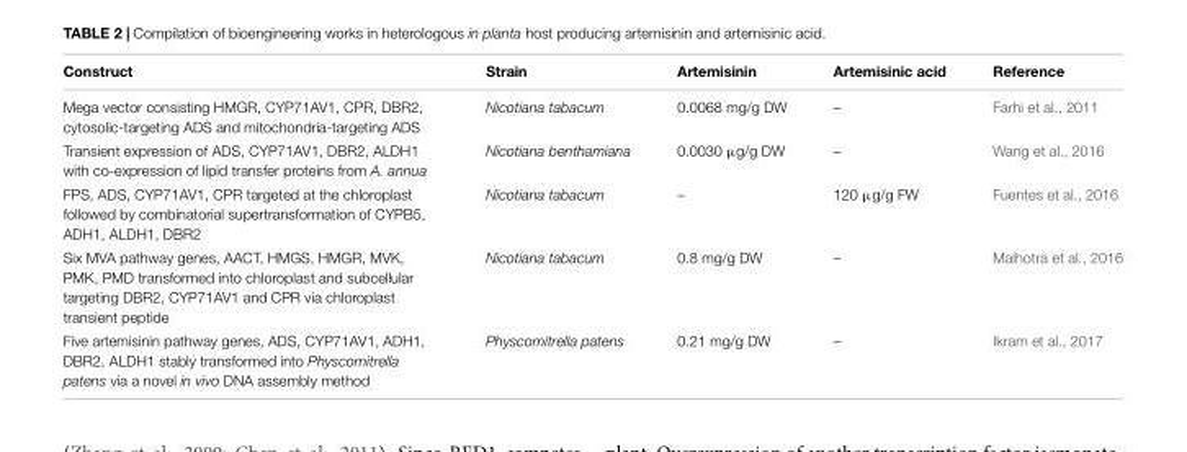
<table><thead><tr><td>Construct</td><td>Strain</td><td>Artemisinin</td><td>Artemisinic acid</td><td>Reference</td></tr></thead><tbody><tr><td>Mega vector consisting HMGR, CYP71AV1, CPR, DBR2, cytosolic-targeting ADS and mitochondria-targeting ADS</td><td>Nicotiana tabacum</td><td>0.0068 mg/g DW</td><td>–</td><td>Farhi et al., 2011</td></tr><tr><td>Transient expression of ADS, CYP71AV1, DBR2, ALDH1 with co-expression of lipid transfer proteins from A. annua</td><td>Nicotiana benthamiana</td><td>0.0030 µg/g DW</td><td>–</td><td>Wang et al., 2016</td></tr><tr><td>FPS, ADS, CYP71AV1, CPR targeted at the chloroplast followed by combinatorial supertransformation of CYPB5, ADH1, ALDH1, DBR2</td><td>Nicotiana tabacum</td><td>–</td><td>120 µg/g FW</td><td>Fuentes et al., 2016</td></tr><tr><td>Six MVA pathway genes, AACT, HMGS, HMGR, MVK, PMK, PMD transformed into chloroplast and subcellular targeting DBR2, CYP71AV1 and CPR via chloroplast transient peptide</td><td>Nicotiana tabacum</td><td>0.8 mg/g DW</td><td>–</td><td>Malhotra et al., 2016</td></tr><tr><td>Five artemisinin pathway genes, ADS, CYP71AV1, ADH1, DBR2, ALDH1 stably transformed into Physcomitrella patens via a novel in vivo DNA assembly method</td><td>Physcomitrella patens</td><td>0.21 mg/g DW</td><td>–</td><td>Ikram et al., 2017</td></tr></tbody></table>